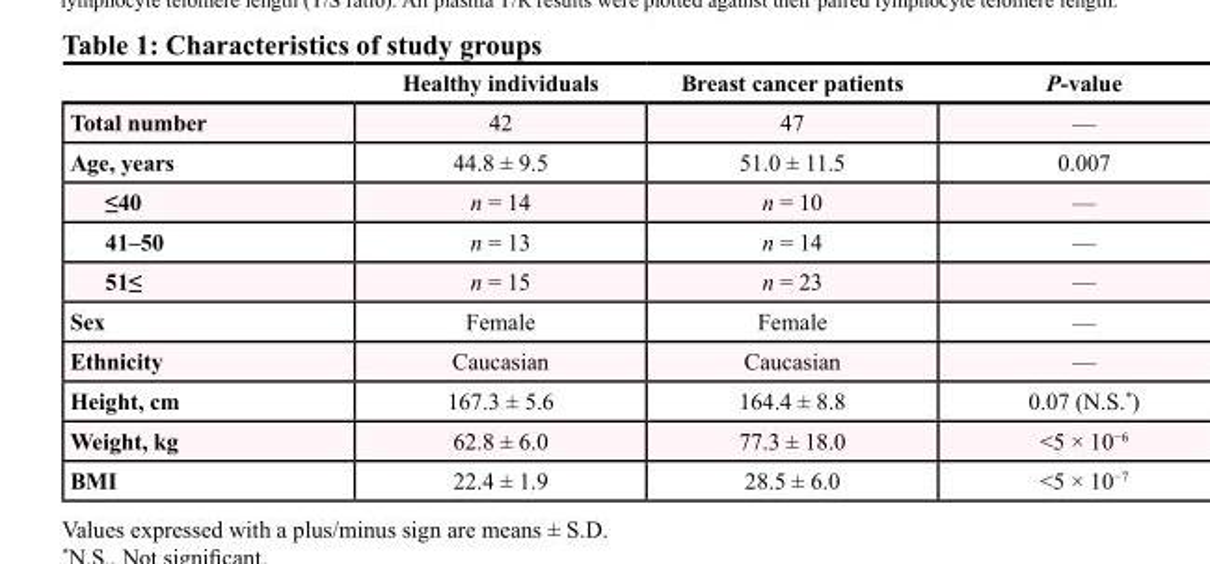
<table><thead><tr><td></td><td>Healthy individuals</td><td>Breast cancer patients</td><td>P-value</td></tr></thead><tbody><tr><td>Total number</td><td>42</td><td>47</td><td>—</td></tr><tr><td>Age, years</td><td>44.8 ± 9.5</td><td>51.0 ± 11.5</td><td>0.007</td></tr><tr><td>≤40</td><td>n = 14</td><td>n = 10</td><td>—</td></tr><tr><td>41–50</td><td>n = 13</td><td>n = 14</td><td>—</td></tr><tr><td>51≤</td><td>n = 15</td><td>n = 23</td><td>—</td></tr><tr><td>Sex</td><td>Female</td><td>Female</td><td>—</td></tr><tr><td>Ethnicity</td><td>Caucasian</td><td>Caucasian</td><td>—</td></tr><tr><td>Height, cm</td><td>167.3 ± 5.6</td><td>164.4 ± 8.8</td><td>0.07 (N.S.*)</td></tr><tr><td>Weight, kg</td><td>62.8 ± 6.0</td><td>77.3 ± 18.0</td><td>&lt;5 × 10<sup>−6</sup></td></tr><tr><td>BMI</td><td>22.4 ± 1.9</td><td>28.5 ± 6.0</td><td>&lt;5 × 10<sup>−7</sup></td></tr></tbody></table>